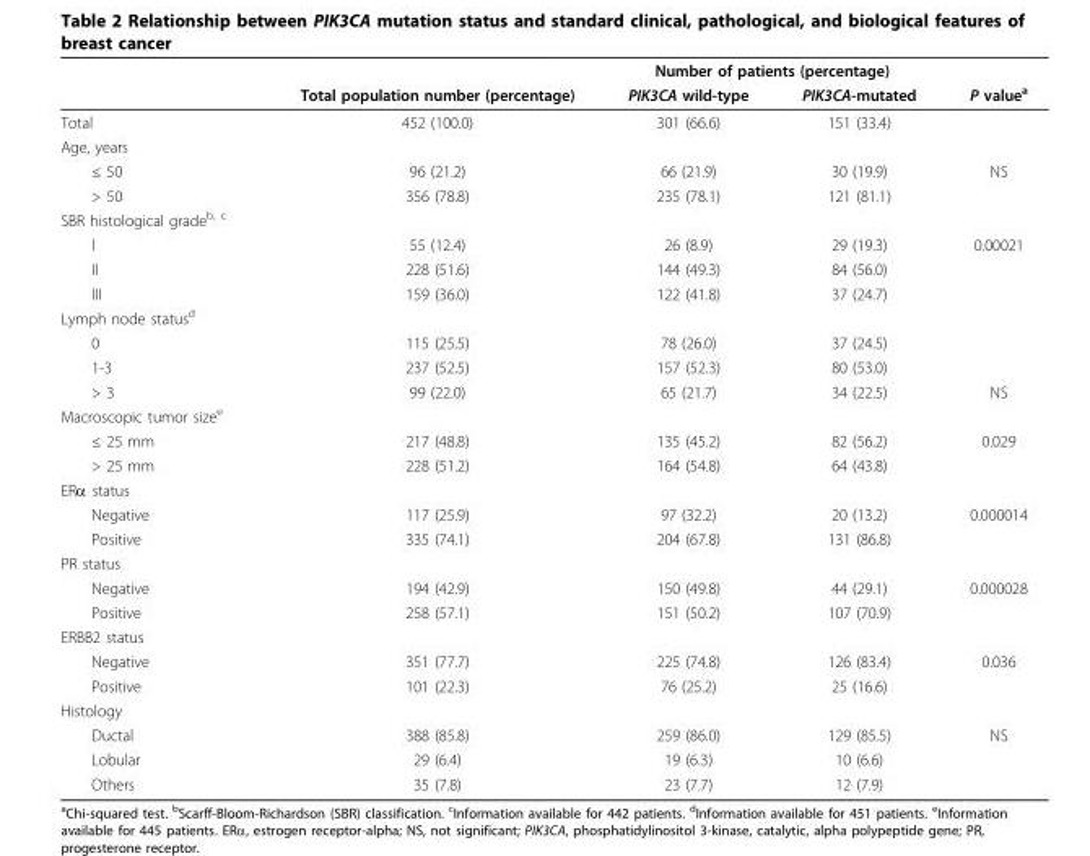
<table><thead><tr><td rowspan="2"></td><td rowspan="2">Total population number (percentage)</td><td colspan="2">Number of patients (percentage)</td><td rowspan="2">P value<sup>a</sup></td></tr><tr><td>PIK3CA wild-type</td><td>PIK3CA-mutated</td></tr></thead><tbody><tr><td>Total</td><td>452 (100.0)</td><td>301 (66.6)</td><td>151 (33.4)</td><td></td></tr><tr><td colspan="5">Age, years</td></tr><tr><td>≤ 50</td><td>96 (21.2)</td><td>66 (21.9)</td><td>30 (19.9)</td><td>NS</td></tr><tr><td>&gt; 50</td><td>356 (78.8)</td><td>235 (78.1)</td><td>121 (81.1)</td><td></td></tr><tr><td colspan="5">SBR histological grade<sup>b, c</sup></td></tr><tr><td>I</td><td>55 (12.4)</td><td>26 (8.9)</td><td>29 (19.3)</td><td>0.00021</td></tr><tr><td>II</td><td>228 (51.6)</td><td>144 (49.3)</td><td>84 (56.0)</td><td></td></tr><tr><td>III</td><td>159 (36.0)</td><td>122 (41.8)</td><td>37 (24.7)</td><td></td></tr><tr><td colspan="5">Lymph node status<sup>d</sup></td></tr><tr><td>0</td><td>115 (25.5)</td><td>78 (26.0)</td><td>37 (24.5)</td><td></td></tr><tr><td>1-3</td><td>237 (52.5)</td><td>157 (52.3)</td><td>80 (53.0)</td><td></td></tr><tr><td>&gt; 3</td><td>99 (22.0)</td><td>65 (21.7)</td><td>34 (22.5)</td><td>NS</td></tr><tr><td colspan="5">Macroscopic tumor size<sup>e</sup></td></tr><tr><td>≤ 25 mm</td><td>217 (48.8)</td><td>135 (45.2)</td><td>82 (56.2)</td><td>0.029</td></tr><tr><td>&gt; 25 mm</td><td>228 (51.2)</td><td>164 (54.8)</td><td>64 (43.8)</td><td></td></tr><tr><td colspan="5">ERα status</td></tr><tr><td>Negative</td><td>117 (25.9)</td><td>97 (32.2)</td><td>20 (13.2)</td><td>0.000014</td></tr><tr><td>Positive</td><td>335 (74.1)</td><td>204 (67.8)</td><td>131 (86.8)</td><td></td></tr><tr><td colspan="5">PR status</td></tr><tr><td>Negative</td><td>194 (42.9)</td><td>150 (49.8)</td><td>44 (29.1)</td><td>0.000028</td></tr><tr><td>Positive</td><td>258 (57.1)</td><td>151 (50.2)</td><td>107 (70.9)</td><td></td></tr><tr><td colspan="5">ERBB2 status</td></tr><tr><td>Negative</td><td>351 (77.7)</td><td>225 (74.8)</td><td>126 (83.4)</td><td>0.036</td></tr><tr><td>Positive</td><td>101 (22.3)</td><td>76 (25.2)</td><td>25 (16.6)</td><td></td></tr><tr><td colspan="5">Histology</td></tr><tr><td>Ductal</td><td>388 (85.8)</td><td>259 (86.0)</td><td>129 (85.5)</td><td>NS</td></tr><tr><td>Lobular</td><td>29 (6.4)</td><td>19 (6.3)</td><td>10 (6.6)</td><td></td></tr><tr><td>Others</td><td>35 (7.8)</td><td>23 (7.7)</td><td>12 (7.9)</td><td></td></tr></tbody></table>